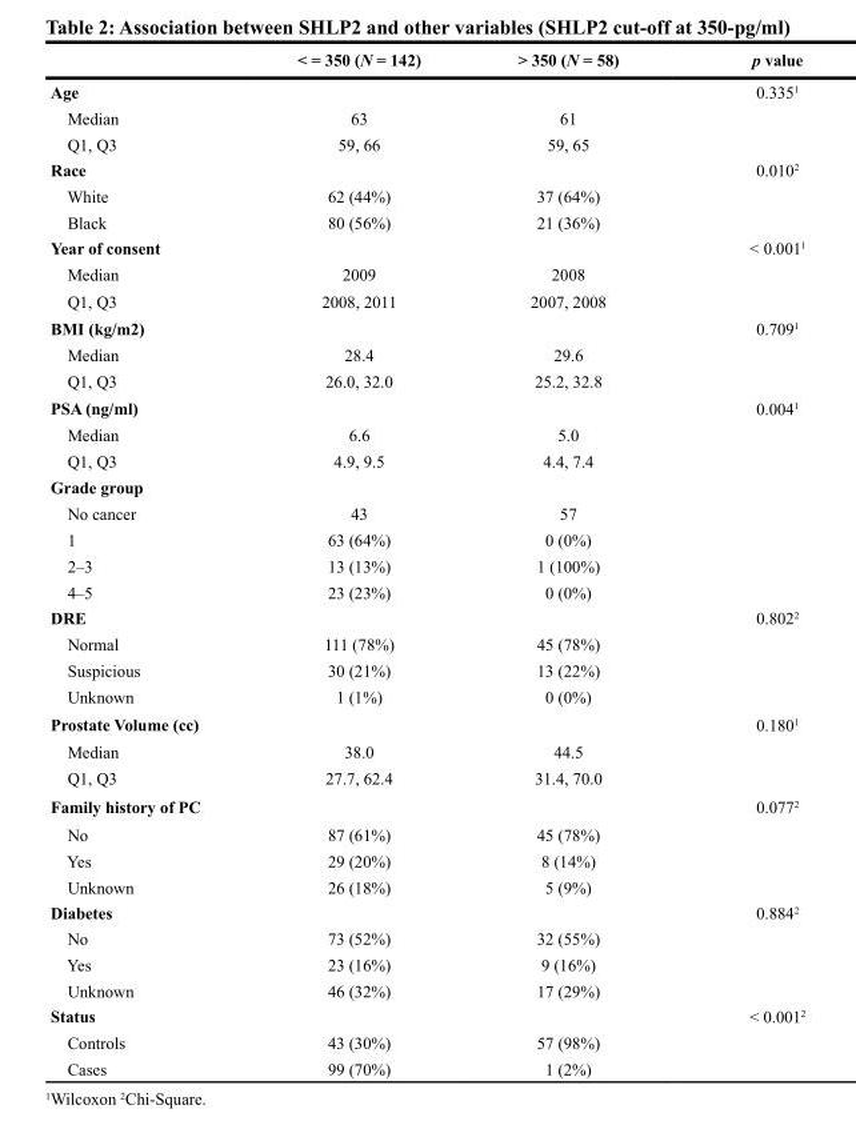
<table><thead><tr><td></td><td>&lt; = 350 (N = 142)</td><td>&gt; 350 (N = 58)</td><td>p value</td></tr></thead><tbody><tr><td>Age</td><td></td><td></td><td>0.335<sup>1</sup></td></tr><tr><td>Median</td><td>63</td><td>61</td><td></td></tr><tr><td>Q1, Q3</td><td>59, 66</td><td>59, 65</td><td></td></tr><tr><td>Race</td><td></td><td></td><td>0.010<sup>2</sup></td></tr><tr><td>White</td><td>62 (44%)</td><td>37 (64%)</td><td></td></tr><tr><td>Black</td><td>80 (56%)</td><td>21 (36%)</td><td></td></tr><tr><td>Year of consent</td><td></td><td></td><td>&lt; 0.001<sup>1</sup></td></tr><tr><td>Median</td><td>2009</td><td>2008</td><td></td></tr><tr><td>Q1, Q3</td><td>2008, 2011</td><td>2007, 2008</td><td></td></tr><tr><td>BMI (kg/m2)</td><td></td><td></td><td>0.709<sup>1</sup></td></tr><tr><td>Median</td><td>28.4</td><td>29.6</td><td></td></tr><tr><td>Q1, Q3</td><td>26.0, 32.0</td><td>25.2, 32.8</td><td></td></tr><tr><td>PSA (ng/ml)</td><td></td><td></td><td>0.004<sup>1</sup></td></tr><tr><td>Median</td><td>6.6</td><td>5.0</td><td></td></tr><tr><td>Q1, Q3</td><td>4.9, 9.5</td><td>4.4, 7.4</td><td></td></tr><tr><td colspan="4">Grade group</td></tr><tr><td>No cancer</td><td>43</td><td>57</td><td></td></tr><tr><td>1</td><td>63 (64%)</td><td>0 (0%)</td><td></td></tr><tr><td>2–3</td><td>13 (13%)</td><td>1 (100%)</td><td></td></tr><tr><td>4–5</td><td>23 (23%)</td><td>0 (0%)</td><td></td></tr><tr><td>DRE</td><td></td><td></td><td>0.802<sup>2</sup></td></tr><tr><td>Normal</td><td>111 (78%)</td><td>45 (78%)</td><td></td></tr><tr><td>Suspicious</td><td>30 (21%)</td><td>13 (22%)</td><td></td></tr><tr><td>Unknown</td><td>1 (1%)</td><td>0 (0%)</td><td></td></tr><tr><td>Prostate Volume (cc)</td><td></td><td></td><td>0.180<sup>1</sup></td></tr><tr><td>Median</td><td>38.0</td><td>44.5</td><td></td></tr><tr><td>Q1, Q3</td><td>27.7, 62.4</td><td>31.4, 70.0</td><td></td></tr><tr><td>Family history of PC</td><td></td><td></td><td>0.077<sup>2</sup></td></tr><tr><td>No</td><td>87 (61%)</td><td>45 (78%)</td><td></td></tr><tr><td>Yes</td><td>29 (20%)</td><td>8 (14%)</td><td></td></tr><tr><td>Unknown</td><td>26 (18%)</td><td>5 (9%)</td><td></td></tr><tr><td>Diabetes</td><td></td><td></td><td>0.884<sup>2</sup></td></tr><tr><td>No</td><td>73 (52%)</td><td>32 (55%)</td><td></td></tr><tr><td>Yes</td><td>23 (16%)</td><td>9 (16%)</td><td></td></tr><tr><td>Unknown</td><td>46 (32%)</td><td>17 (29%)</td><td></td></tr><tr><td>Status</td><td></td><td></td><td>&lt; 0.001<sup>2</sup></td></tr><tr><td>Controls</td><td>43 (30%)</td><td>57 (98%)</td><td></td></tr><tr><td>Cases</td><td>99 (70%)</td><td>1 (2%)</td><td></td></tr></tbody></table>